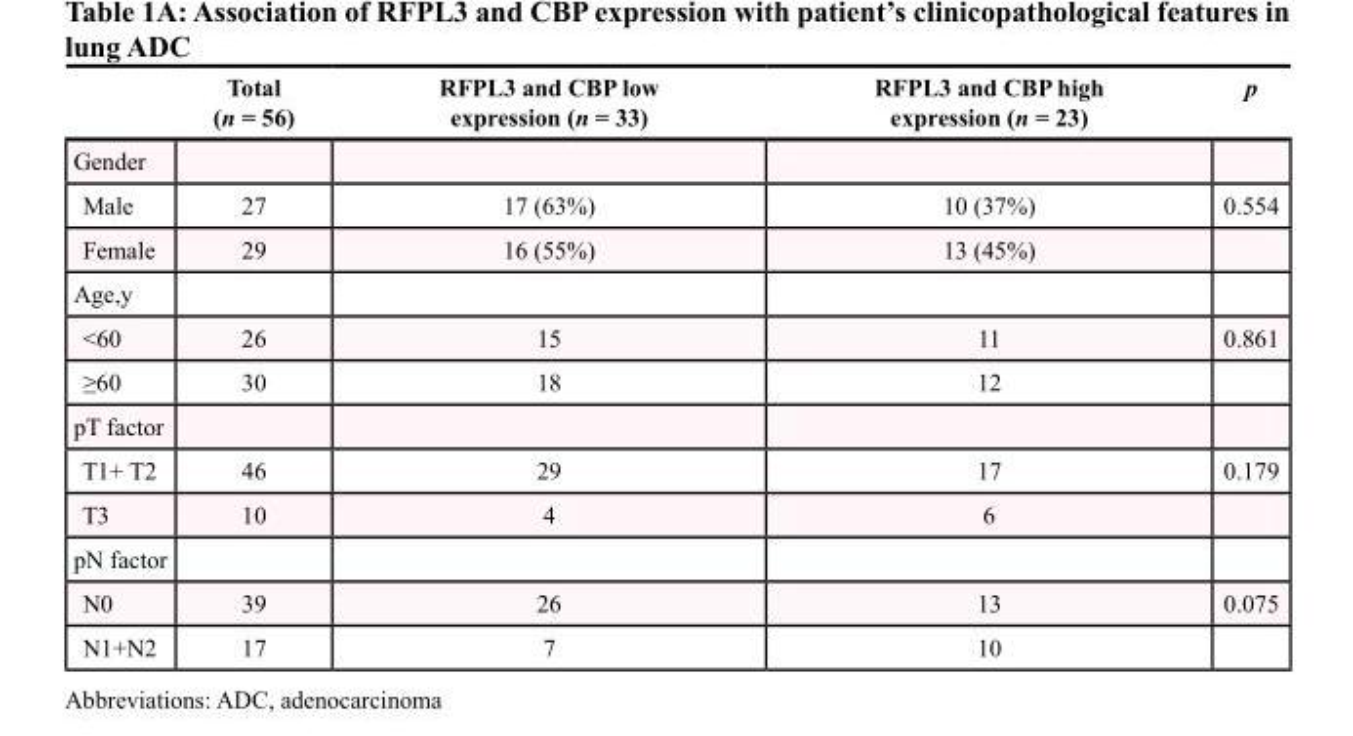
<table><thead><tr><td></td><td>Total (n = 56)</td><td>RFPL3 and CBP low expression (n = 33)</td><td>RFPL3 and CBP high expression (n = 23)</td><td>p</td></tr></thead><tbody><tr><td colspan="5">Gender</td></tr><tr><td>Male</td><td>27</td><td>17 (63%)</td><td>10 (37%)</td><td>0.554</td></tr><tr><td>Female</td><td>29</td><td>16 (55%)</td><td>13 (45%)</td><td></td></tr><tr><td colspan="5">Age,y</td></tr><tr><td>&lt;60</td><td>26</td><td>15</td><td>11</td><td>0.861</td></tr><tr><td>≥60</td><td>30</td><td>18</td><td>12</td><td></td></tr><tr><td colspan="5">pT factor</td></tr><tr><td>T1+ T2</td><td>46</td><td>29</td><td>17</td><td>0.179</td></tr><tr><td>T3</td><td>10</td><td>4</td><td>6</td><td></td></tr><tr><td colspan="5">pN factor</td></tr><tr><td>N0</td><td>39</td><td>26</td><td>13</td><td>0.075</td></tr><tr><td>N1+N2</td><td>17</td><td>7</td><td>10</td><td></td></tr></tbody></table>